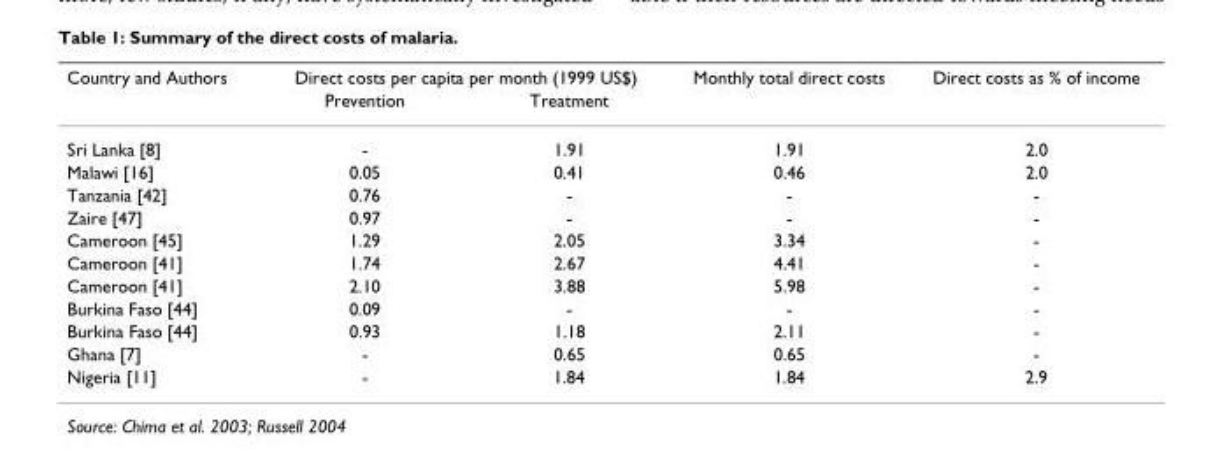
<table><thead><tr><td rowspan="2">Country and Authors</td><td colspan="2">Direct costs per capita per month (1999 US$)</td><td rowspan="2">Monthly total direct costs</td><td rowspan="2">Direct costs as % of income</td></tr><tr><td>Prevention</td><td>Treatment</td></tr></thead><tbody><tr><td>Sri Lanka [8]</td><td>-</td><td>1.91</td><td>1.91</td><td>2.0</td></tr><tr><td>Malawi [16]</td><td>0.05</td><td>0.41</td><td>0.46</td><td>2.0</td></tr><tr><td>Tanzania [42]</td><td>0.76</td><td>-</td><td>-</td><td>-</td></tr><tr><td>Zaire [47]</td><td>0.97</td><td>-</td><td>-</td><td>-</td></tr><tr><td>Cameroon [45]</td><td>1.29</td><td>2.05</td><td>3.34</td><td>-</td></tr><tr><td>Cameroon [41]</td><td>1.74</td><td>2.67</td><td>4.41</td><td>-</td></tr><tr><td>Cameroon [41]</td><td>2.10</td><td>3.88</td><td>5.98</td><td>-</td></tr><tr><td>Burkina Faso [44]</td><td>0.09</td><td>-</td><td>-</td><td>-</td></tr><tr><td>Burkina Faso [44]</td><td>0.93</td><td>1.18</td><td>2.11</td><td>-</td></tr><tr><td>Ghana [7]</td><td>-</td><td>0.65</td><td>0.65</td><td>-</td></tr><tr><td>Nigeria [11]</td><td>-</td><td>1.84</td><td>1.84</td><td>2.9</td></tr></tbody></table>